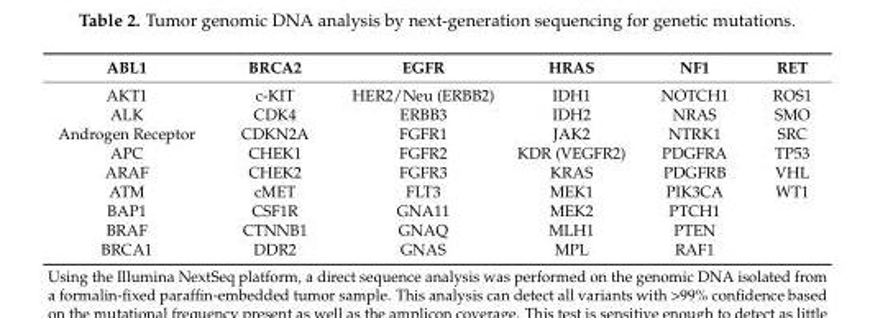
<table><thead><tr><td>ABL1</td><td>BRCA2</td><td>EGFR</td><td>HRAS</td><td>NF1</td><td>RET</td></tr></thead><tbody><tr><td>AKT1</td><td>c-KIT</td><td>HER2/Neu (ERBB2)</td><td>IDH1</td><td>NOTCH1</td><td>ROS1</td></tr><tr><td>ALK</td><td>CDK4</td><td>ERBB3</td><td>IDH2</td><td>NRAS</td><td>SMO</td></tr><tr><td>Androgen Receptor</td><td>CDKN2A</td><td>FGFR1</td><td>JAK2</td><td>NTRK1</td><td>SRC</td></tr><tr><td>APC</td><td>CHEK1</td><td>FGFR2</td><td>KDR (VEGFR2)</td><td>PDGFRA</td><td>TP53</td></tr><tr><td>ARAF</td><td>CHEK2</td><td>FGFR3</td><td>KRAS</td><td>PDGFRB</td><td>VHL</td></tr><tr><td>ATM</td><td>cMET</td><td>FLT3</td><td>MEK1</td><td>PIK3CA</td><td>WT1</td></tr><tr><td>BAP1</td><td>CSF1R</td><td>GNA11</td><td>MEK2</td><td>PTCH1</td><td></td></tr><tr><td>BRAF</td><td>CTNNB1</td><td>GNAQ</td><td>MLH1</td><td>PTEN</td><td></td></tr><tr><td>BRCA1</td><td>DDR2</td><td>GNAS</td><td>MPL</td><td>RAF1</td><td></td></tr></tbody></table>